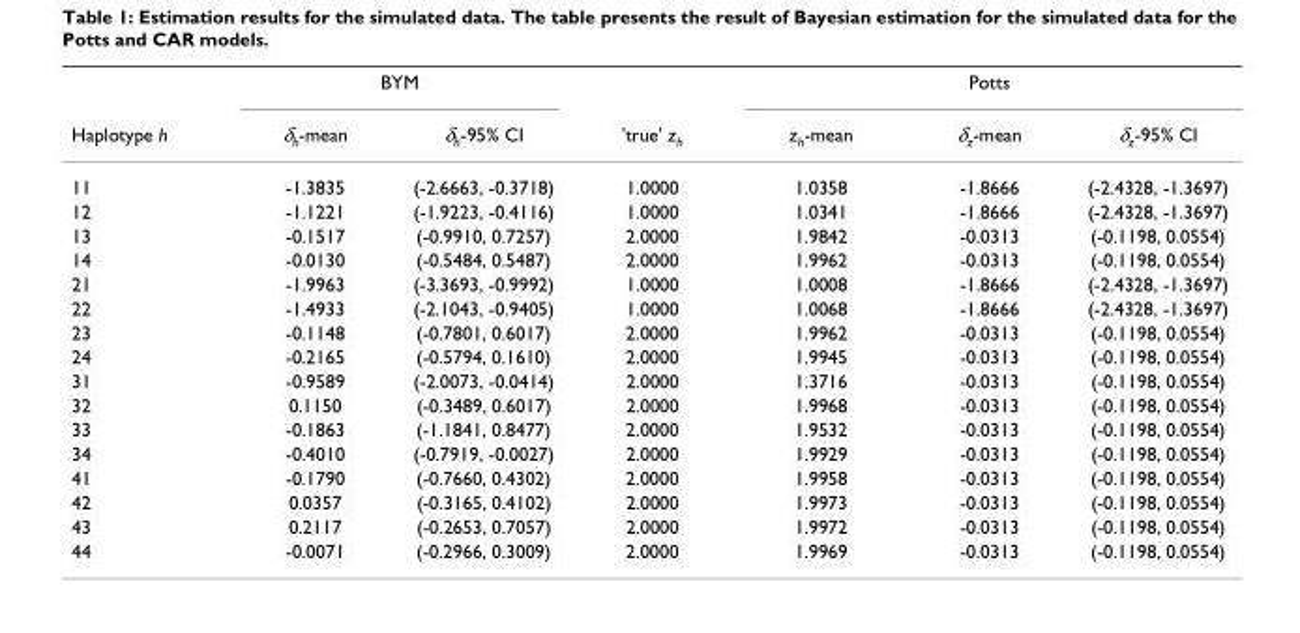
<table><thead><tr><td rowspan="2">Haplotype h</td><td colspan="2">BYM</td><td rowspan="2">&#x27;true&#x27; zh</td><td colspan="3">Potts</td></tr><tr><td>δh-mean</td><td>δh-95% CI</td><td>zh-mean</td><td>δz-mean</td><td>δz-95% CI</td></tr></thead><tbody><tr><td>11</td><td>-1.3835</td><td>(-2.6663, -0.3718)</td><td>1.0000</td><td>1.0358</td><td>-1.8666</td><td>(-2.4328, -1.3697)</td></tr><tr><td>12</td><td>-1.1221</td><td>(-1.9223, -0.4116)</td><td>1.0000</td><td>1.0341</td><td>-1.8666</td><td>(-2.4328, -1.3697)</td></tr><tr><td>13</td><td>-0.1517</td><td>(-0.9910, 0.7257)</td><td>2.0000</td><td>1.9842</td><td>-0.0313</td><td>(-0.1198, 0.0554)</td></tr><tr><td>14</td><td>-0.0130</td><td>(-0.5484, 0.5487)</td><td>2.0000</td><td>1.9962</td><td>-0.0313</td><td>(-0.1198, 0.0554)</td></tr><tr><td>21</td><td>-1.9963</td><td>(-3.3693, -0.9992)</td><td>1.0000</td><td>1.0008</td><td>-1.8666</td><td>(-2.4328, -1.3697)</td></tr><tr><td>22</td><td>-1.4933</td><td>(-2.1043, -0.9405)</td><td>1.0000</td><td>1.0068</td><td>-1.8666</td><td>(-2.4328, -1.3697)</td></tr><tr><td>23</td><td>-0.1148</td><td>(-0.7801, 0.6017)</td><td>2.0000</td><td>1.9962</td><td>-0.0313</td><td>(-0.1198, 0.0554)</td></tr><tr><td>24</td><td>-0.2165</td><td>(-0.5794, 0.1610)</td><td>2.0000</td><td>1.9945</td><td>-0.0313</td><td>(-0.1198, 0.0554)</td></tr><tr><td>31</td><td>-0.9589</td><td>(-2.0073, -0.0414)</td><td>2.0000</td><td>1.3716</td><td>-0.0313</td><td>(-0.1198, 0.0554)</td></tr><tr><td>32</td><td>0.1150</td><td>(-0.3489, 0.6017)</td><td>2.0000</td><td>1.9968</td><td>-0.0313</td><td>(-0.1198, 0.0554)</td></tr><tr><td>33</td><td>-0.1863</td><td>(-1.1841, 0.8477)</td><td>2.0000</td><td>1.9532</td><td>-0.0313</td><td>(-0.1198, 0.0554)</td></tr><tr><td>34</td><td>-0.4010</td><td>(-0.7919, -0.0027)</td><td>2.0000</td><td>1.9929</td><td>-0.0313</td><td>(-0.1198, 0.0554)</td></tr><tr><td>41</td><td>-0.1790</td><td>(-0.7660, 0.4302)</td><td>2.0000</td><td>1.9958</td><td>-0.0313</td><td>(-0.1198, 0.0554)</td></tr><tr><td>42</td><td>0.0357</td><td>(-0.3165, 0.4102)</td><td>2.0000</td><td>1.9973</td><td>-0.0313</td><td>(-0.1198, 0.0554)</td></tr><tr><td>43</td><td>0.2117</td><td>(-0.2653, 0.7057)</td><td>2.0000</td><td>1.9972</td><td>-0.0313</td><td>(-0.1198, 0.0554)</td></tr><tr><td>44</td><td>-0.0071</td><td>(-0.2966, 0.3009)</td><td>2.0000</td><td>1.9969</td><td>-0.0313</td><td>(-0.1198, 0.0554)</td></tr></tbody></table>